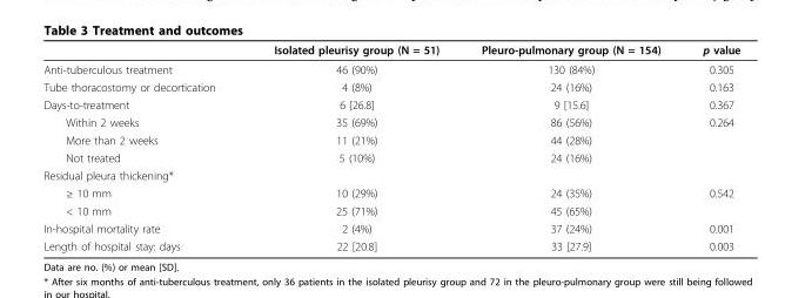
<table><thead><tr><td></td><td>Isolated pleurisy group (N = 51)</td><td>Pleuro-pulmonary group (N = 154)</td><td>p value</td></tr></thead><tbody><tr><td>Anti-tuberculous treatment</td><td>46 (90%)</td><td>130 (84%)</td><td>0.305</td></tr><tr><td>Tube thoracostomy or decortication</td><td>4 (8%)</td><td>24 (16%)</td><td>0.163</td></tr><tr><td>Days-to-treatment</td><td>6 [26.8]</td><td>9 [15.6]</td><td>0.367</td></tr><tr><td>Within 2 weeks</td><td>35 (69%)</td><td>86 (56%)</td><td>0.264</td></tr><tr><td>More than 2 weeks</td><td>11 (21%)</td><td>44 (28%)</td><td></td></tr><tr><td>Not treated</td><td>5 (10%)</td><td>24 (16%)</td><td></td></tr><tr><td colspan="4">Residual pleura thickening*</td></tr><tr><td>≥ 10 mm</td><td>10 (29%)</td><td>24 (35%)</td><td>0.542</td></tr><tr><td>&lt; 10 mm</td><td>25 (71%)</td><td>45 (65%)</td><td></td></tr><tr><td>In-hospital mortality rate</td><td>2 (4%)</td><td>37 (24%)</td><td>0.001</td></tr><tr><td>Length of hospital stay: days</td><td>22 [20.8]</td><td>33 [27.9]</td><td>0.003</td></tr></tbody></table>